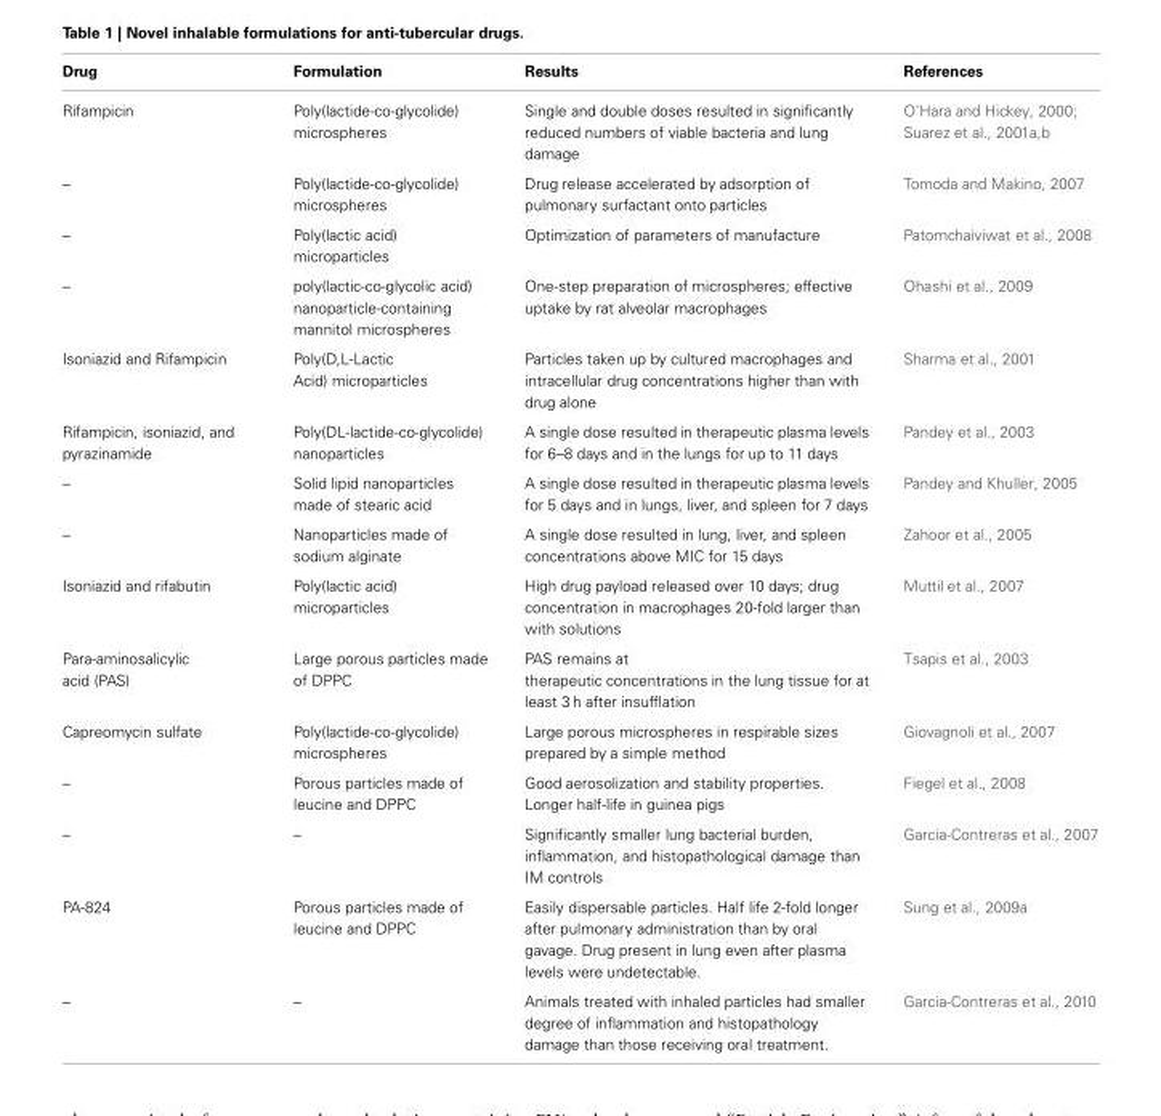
<table><thead><tr><td>Drug</td><td>Formulation</td><td>Results</td><td>References</td></tr></thead><tbody><tr><td>Rifampicin</td><td>Poly(lactide-co-glycolide) microspheres</td><td>Single and double doses resulted in significantly reduced numbers of viable bacteria and lung damage</td><td>O’Hara and Hickey, 2000; Suarez et al., 2001a,b</td></tr><tr><td>–</td><td>Poly(lactide-co-glycolide) microspheres</td><td>Drug release accelerated by adsorption of pulmonary surfactant onto particles</td><td>Tomoda and Makino, 2007</td></tr><tr><td>–</td><td>Poly(lactic acid) microparticles</td><td>Optimization of parameters of manufacture</td><td>Patomchaiviwat et al., 2008</td></tr><tr><td>–</td><td>poly(lactic-co-glycolic acid) nanoparticle-containing mannitol microspheres</td><td>One-step preparation of microspheres; effective uptake by rat alveolar macrophages</td><td>Ohashi et al., 2009</td></tr><tr><td>Isoniazid and Rifampicin</td><td>Poly(D,L-Lactic Acid) microparticles</td><td>Particles taken up by cultured macrophages and intracellular drug concentrations higher than with drug alone</td><td>Sharma et al., 2001</td></tr><tr><td>Rifampicin, isoniazid, and pyrazinamide</td><td>Poly(DL-lactide-co-glycolide) nanoparticles</td><td>A single dose resulted in therapeutic plasma levels for 6–8 days and in the lungs for up to 11 days</td><td>Pandey et al., 2003</td></tr><tr><td>–</td><td>Solid lipid nanoparticles made of stearic acid</td><td>A single dose resulted in therapeutic plasma levels for 5 days and in lungs, liver, and spleen for 7 days</td><td>Pandey and Khuller, 2005</td></tr><tr><td>–</td><td>Nanoparticles made of sodium alginate</td><td>A single dose resulted in lung, liver, and spleen concentrations above MIC for 15 days</td><td>Zahoor et al., 2005</td></tr><tr><td>Isoniazid and rifabutin</td><td>Poly(lactic acid) microparticles</td><td>High drug payload released over 10 days; drug concentration in macrophages 20-fold larger than with solutions</td><td>Muttil et al., 2007</td></tr><tr><td>Para-aminosalicylic acid (PAS)</td><td>Large porous particles made of DPPC</td><td>PAS remains at therapeutic concentrations in the lung tissue for at least 3 h after insufflation</td><td>Tsapis et al., 2003</td></tr><tr><td>Capreomycin sulfate</td><td>Poly(lactide-co-glycolide) microspheres</td><td>Large porous microspheres in respirable sizes prepared by a simple method</td><td>Giovagnoli et al., 2007</td></tr><tr><td>–</td><td>Porous particles made of leucine and DPPC</td><td>Good aerosolization and stability properties. Longer half-life in guinea pigs</td><td>Fiegel et al., 2008</td></tr><tr><td>–</td><td>–</td><td>Significantly smaller lung bacterial burden, inflammation, and histopathological damage than IM controls</td><td>Garcia-Contreras et al., 2007</td></tr><tr><td>PA-824</td><td>Porous particles made of leucine and DPPC</td><td>Easily dispersable particles. Half life 2-fold longer after pulmonary administration than by oral gavage. Drug present in lung even after plasma levels were undetectable.</td><td>Sung et al., 2009a</td></tr><tr><td>–</td><td>–</td><td>Animals treated with inhaled particles had smaller degree of inflammation and histopathology damage than those receiving oral treatment.</td><td>Garcia-Contreras et al., 2010</td></tr></tbody></table>